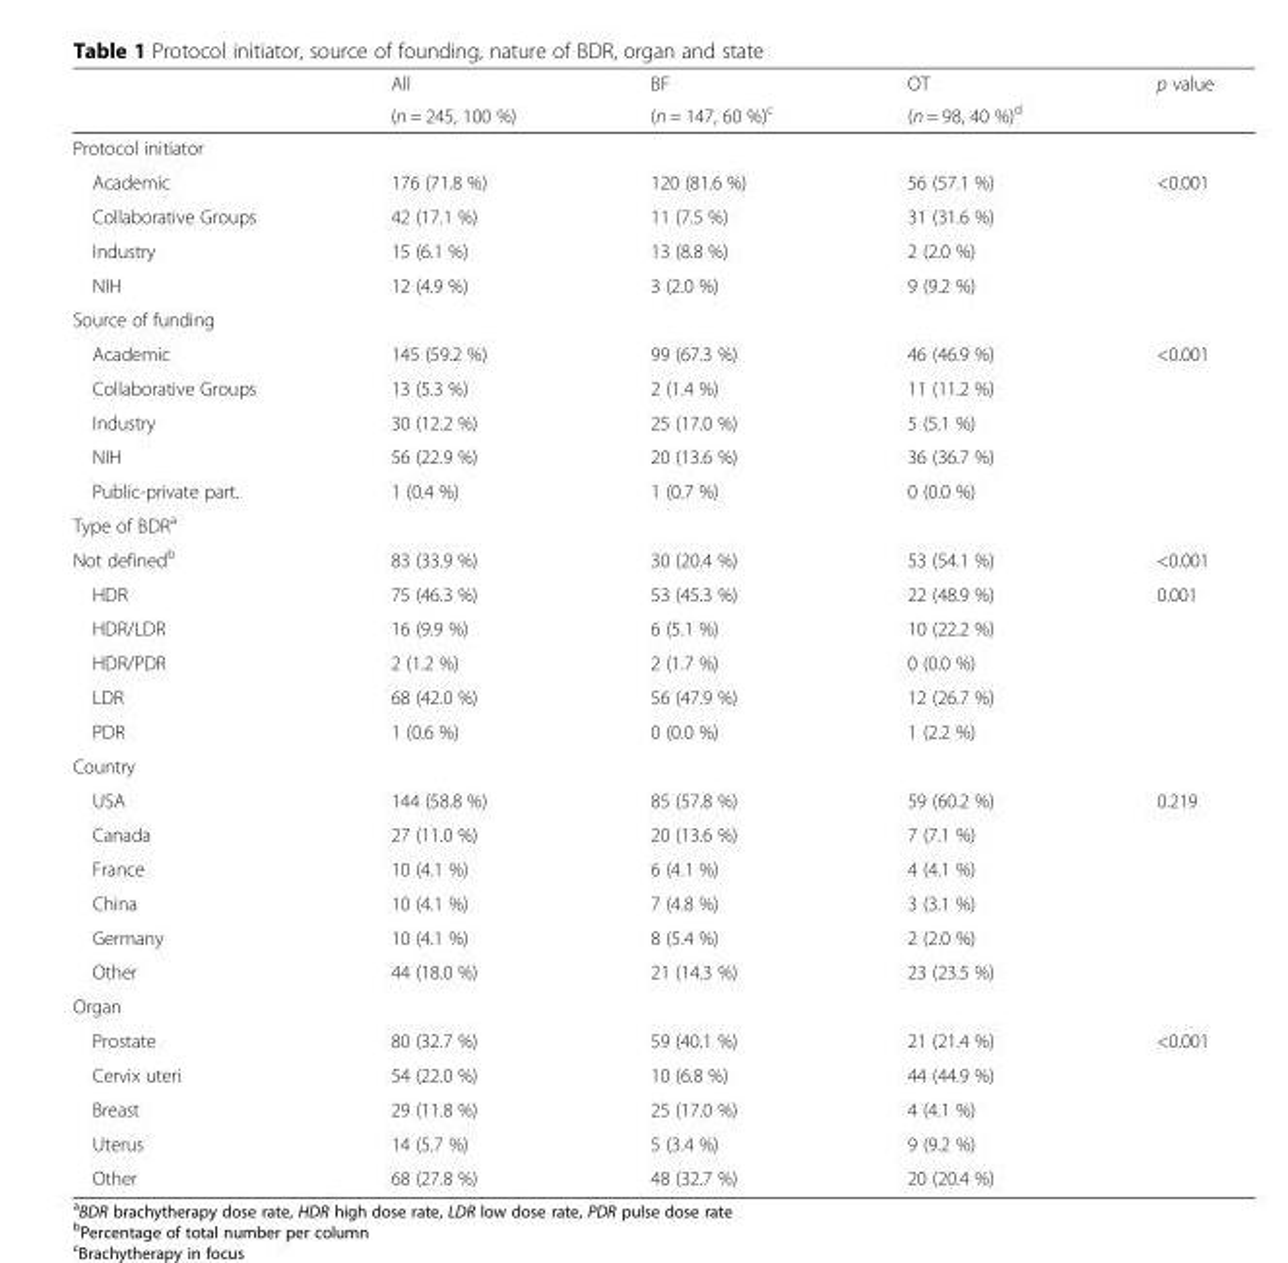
<table><thead><tr><td rowspan="2"></td><td rowspan="2">All (n = 245, 100 %)</td><td rowspan="2">BF (n = 147, 60 %)<sup>c</sup></td><td rowspan="2">OT (n = 98, 40 %)<sup>d</sup></td><td rowspan="2">p value</td></tr><tr></tr></thead><tbody><tr><td colspan="5">Protocol initiator</td></tr><tr><td>Academic</td><td>176 (71.8 %)</td><td>120 (81.6 %)</td><td>56 (57.1 %)</td><td rowspan="4">&lt;0.001</td></tr><tr><td>Collaborative Groups</td><td>42 (17.1 %)</td><td>11 (7.5 %)</td><td>31 (31.6 %)</td></tr><tr><td>Industry</td><td>15 (6.1 %)</td><td>13 (8.8 %)</td><td>2 (2.0 %)</td></tr><tr><td>NIH</td><td>12 (4.9 %)</td><td>3 (2.0 %)</td><td>9 (9.2 %)</td></tr><tr><td colspan="5">Source of funding</td></tr><tr><td>Academic</td><td>145 (59.2 %)</td><td>99 (67.3 %)</td><td>46 (46.9 %)</td><td rowspan="5">&lt;0.001</td></tr><tr><td>Collaborative Groups</td><td>13 (5.3 %)</td><td>2 (1.4 %)</td><td>11 (11.2 %)</td></tr><tr><td>Industry</td><td>30 (12.2 %)</td><td>25 (17.0 %)</td><td>5 (5.1 %)</td></tr><tr><td>NIH</td><td>56 (22.9 %)</td><td>20 (13.6 %)</td><td>36 (36.7 %)</td></tr><tr><td>Public-private part.</td><td>1 (0.4 %)</td><td>1 (0.7 %)</td><td>0 (0.0 %)</td></tr><tr><td colspan="5">Type of BDR<sup>a</sup></td></tr><tr><td>Not defined<sup>b</sup></td><td>83 (33.9 %)</td><td>30 (20.4 %)</td><td>53 (54.1 %)</td><td>&lt;0.001</td></tr><tr><td>HDR</td><td>75 (46.3 %)</td><td>53 (45.3 %)</td><td>22 (48.9 %)</td><td rowspan="5">0.001</td></tr><tr><td>HDR/LDR</td><td>16 (9.9 %)</td><td>6 (5.1 %)</td><td>10 (22.2 %)</td></tr><tr><td>HDR/PDR</td><td>2 (1.2 %)</td><td>2 (1.7 %)</td><td>0 (0.0 %)</td></tr><tr><td>LDR</td><td>68 (42.0 %)</td><td>56 (47.9 %)</td><td>12 (26.7 %)</td></tr><tr><td>PDR</td><td>1 (0.6 %)</td><td>0 (0.0 %)</td><td>1 (2.2 %)</td></tr><tr><td colspan="5">Country</td></tr><tr><td>USA</td><td>144 (58.8 %)</td><td>85 (57.8 %)</td><td>59 (60.2 %)</td><td rowspan="6">0.219</td></tr><tr><td>Canada</td><td>27 (11.0 %)</td><td>20 (13.6 %)</td><td>7 (7.1 %)</td></tr><tr><td>France</td><td>10 (4.1 %)</td><td>6 (4.1 %)</td><td>4 (4.1 %)</td></tr><tr><td>China</td><td>10 (4.1 %)</td><td>7 (4.8 %)</td><td>3 (3.1 %)</td></tr><tr><td>Germany</td><td>10 (4.1 %)</td><td>8 (5.4 %)</td><td>2 (2.0 %)</td></tr><tr><td>Other</td><td>44 (18.0 %)</td><td>21 (14.3 %)</td><td>23 (23.5 %)</td></tr><tr><td colspan="5">Organ</td></tr><tr><td>Prostate</td><td>80 (32.7 %)</td><td>59 (40.1 %)</td><td>21 (21.4 %)</td><td rowspan="5">&lt;0.001</td></tr><tr><td>Cervix uteri</td><td>54 (22.0 %)</td><td>10 (6.8 %)</td><td>44 (44.9 %)</td></tr><tr><td>Breast</td><td>29 (11.8 %)</td><td>25 (17.0 %)</td><td>4 (4.1 %)</td></tr><tr><td>Uterus</td><td>14 (5.7 %)</td><td>5 (3.4 %)</td><td>9 (9.2 %)</td></tr><tr><td>Other</td><td>68 (27.8 %)</td><td>48 (32.7 %)</td><td>20 (20.4 %)</td></tr></tbody></table>